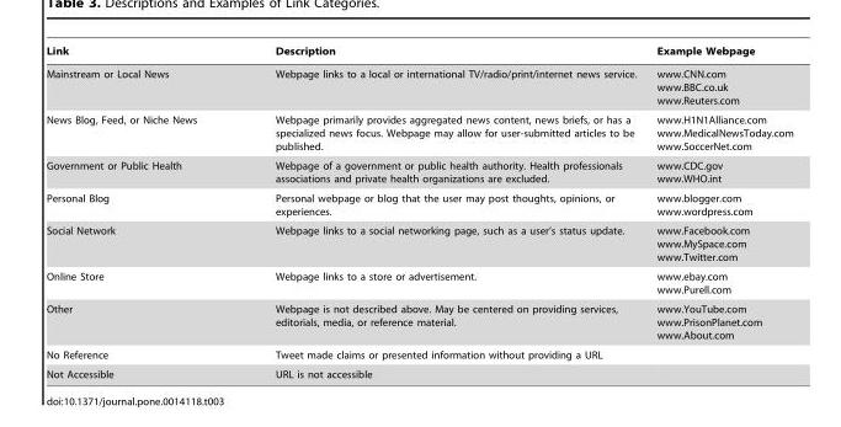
<table><thead><tr><td>Link</td><td>Description</td><td>Example Webpage</td></tr></thead><tbody><tr><td>Mainstream or Local News</td><td>Webpage links to a local or international TV/radio/print/internet news service.</td><td>www.CNN.com www.BBC.co.uk www.Reuters.com</td></tr><tr><td>News Blog, Feed, or Niche News</td><td>Webpage primarily provides aggregated news content, news briefs, or has a specialized news focus. Webpage may allow for user-submitted articles to be published.</td><td>www.H1N1Alliance.com www.MedicalNewsToday.com www.SoccerNet.com</td></tr><tr><td>Government or Public Health</td><td>Webpage of a government or public health authority. Health professionals associations and private health organizations are excluded.</td><td>www.CDC.gov www.WHO.int</td></tr><tr><td>Personal Blog</td><td>Personal webpage or blog that the user may post thoughts, opinions, or experiences.</td><td>www.blogger.com www.wordpress.com</td></tr><tr><td>Social Network</td><td>Webpage links to a social networking page, such as a user’s status update.</td><td>www.Facebook.com www.MySpace.com www.Twitter.com</td></tr><tr><td>Online Store</td><td>Webpage links to a store or advertisement.</td><td>www.ebay.com www.Purell.com</td></tr><tr><td>Other</td><td>Webpage is not described above. May be centered on providing services, editorials, media, or reference material.</td><td>www.YouTube.com www.PrisonPlanet.com www.About.com</td></tr><tr><td>No Reference</td><td>Tweet made claims or presented information without providing a URL</td><td></td></tr><tr><td>Not Accessible</td><td>URL is not accessible</td><td></td></tr></tbody></table>